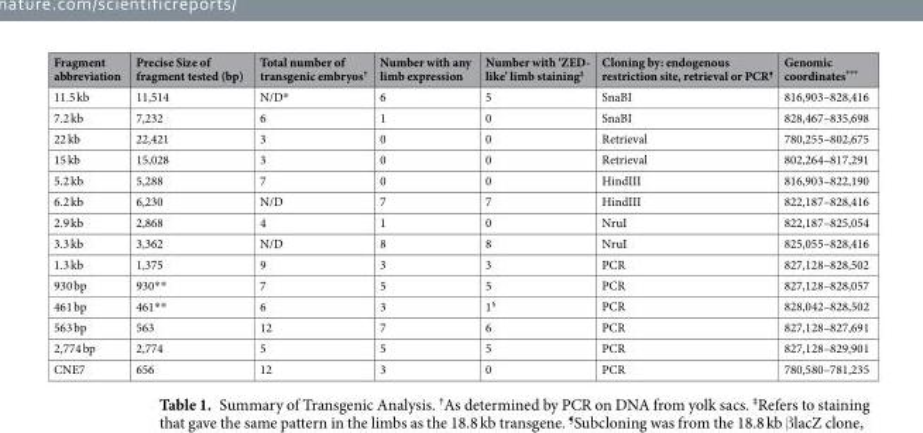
<table><thead><tr><td>Fragment abbreviation</td><td>Precise Size of fragment tested (bp)</td><td>Total number of transgenic embryos<sup>†</sup></td><td>Number with any limb expression</td><td>Number with ‘ZED- like’ limb staining<sup>‡</sup></td><td>Cloning by: endogenous restriction site, retrieval or PCR<sup>¶</sup></td><td>Genomic coordinates***</td></tr></thead><tbody><tr><td>11.5 kb</td><td>11,514</td><td>N/D*</td><td>6</td><td>5</td><td>SnaBI</td><td>816,903–828,416</td></tr><tr><td>7.2 kb</td><td>7,232</td><td>6</td><td>1</td><td>0</td><td>SnaBI</td><td>828,467–835,698</td></tr><tr><td>22 kb</td><td>22,421</td><td>3</td><td>0</td><td>0</td><td>Retrieval</td><td>780,255–802,675</td></tr><tr><td>15 kb</td><td>15,028</td><td>3</td><td>0</td><td>0</td><td>Retrieval</td><td>802,264–817,291</td></tr><tr><td>5.2 kb</td><td>5,288</td><td>7</td><td>0</td><td>0</td><td>HindIII</td><td>816,903–822,190</td></tr><tr><td>6.2 kb</td><td>6,230</td><td>N/D</td><td>7</td><td>7</td><td>HindIII</td><td>822,187–828,416</td></tr><tr><td>2.9 kb</td><td>2,868</td><td>4</td><td>1</td><td>0</td><td>NruI</td><td>822,187–825,054</td></tr><tr><td>3.3 kb</td><td>3,362</td><td>N/D</td><td>8</td><td>8</td><td>NruI</td><td>825,055–828,416</td></tr><tr><td>1.3 kb</td><td>1,375</td><td>9</td><td>3</td><td>3</td><td>PCR</td><td>827,128–828,502</td></tr><tr><td>930 bp</td><td>930**</td><td>7</td><td>5</td><td>5</td><td>PCR</td><td>827,128–828,057</td></tr><tr><td>461 bp</td><td>461**</td><td>6</td><td>3</td><td>1<sup>§</sup></td><td>PCR</td><td>828,042–828,502</td></tr><tr><td>563 bp</td><td>563</td><td>12</td><td>7</td><td>6</td><td>PCR</td><td>827,128–827,691</td></tr><tr><td>2,774 bp</td><td>2,774</td><td>5</td><td>5</td><td>5</td><td>PCR</td><td>827,128–829,901</td></tr><tr><td>CNE7</td><td>656</td><td>12</td><td>3</td><td>0</td><td>PCR</td><td>780,580–781,235</td></tr></tbody></table>